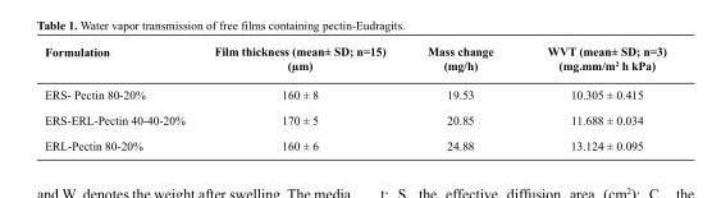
<table><thead><tr><td>Formulation</td><td>Film thickness (mean± SD; n=15) (µm)</td><td>Mass change (mg/h)</td><td>WVT (mean± SD; n=3) (mg.mm/m<sup>2</sup> h kPa)</td></tr></thead><tbody><tr><td>ERS- Pectin 80-20%</td><td>160 ± 8</td><td>19.53</td><td>10.305 ± 0.415</td></tr><tr><td>ERS-ERL-Pectin 40-40-20%</td><td>170 ± 5</td><td>20.85</td><td>11.688 ± 0.034</td></tr><tr><td>ERL-Pectin 80-20%</td><td>160 ± 6</td><td>24.88</td><td>13.124 ± 0.095</td></tr></tbody></table>